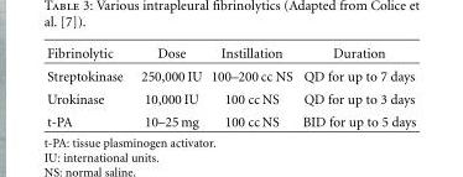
<table><thead><tr><td>Fibrinolytic</td><td>Dose</td><td>Instillation</td><td>Duration</td></tr></thead><tbody><tr><td>Streptokinase</td><td>250,000 IU</td><td>100–200 cc NS</td><td>QD for up to 7 days</td></tr><tr><td>Urokinase</td><td>10,000 IU</td><td>100 cc NS</td><td>QD for up to 3 days</td></tr><tr><td>t-PA</td><td>10–25 mg</td><td>100 cc NS</td><td>BID for up to 5 days</td></tr></tbody></table>